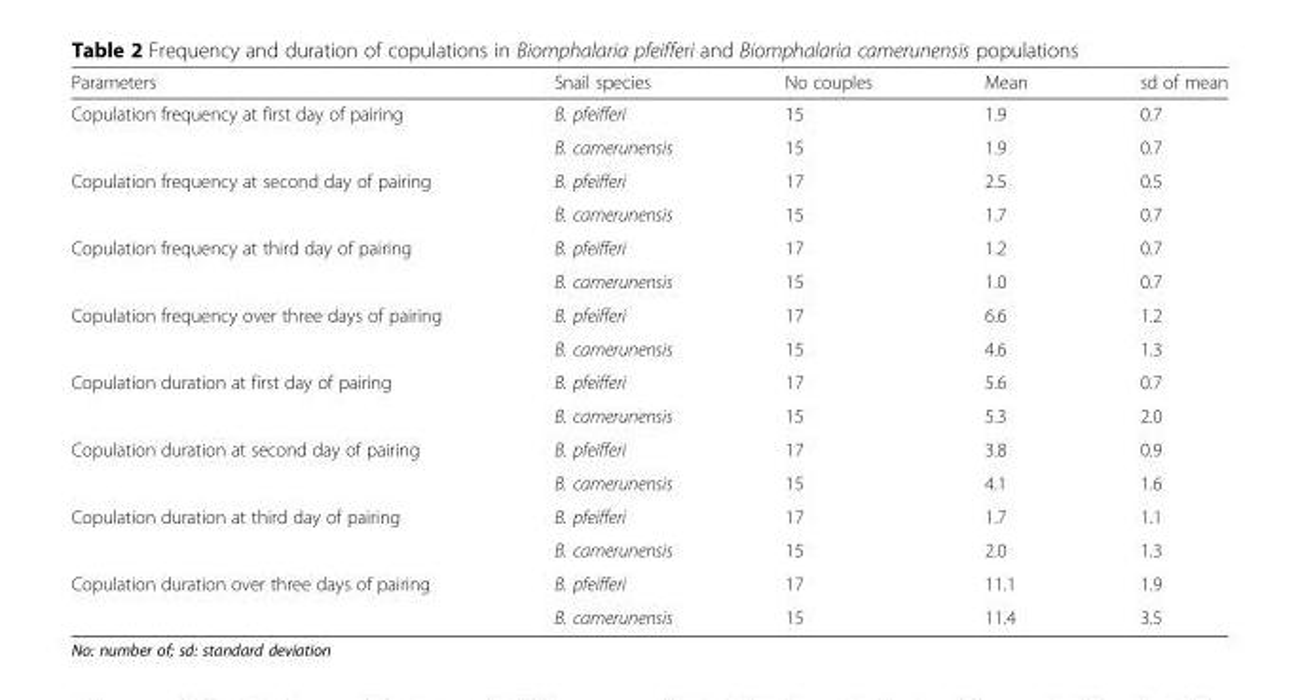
<table><thead><tr><td>Parameters</td><td>Snail species</td><td>No couples</td><td>Mean</td><td>sd of mean</td></tr></thead><tbody><tr><td rowspan="2">Copulation frequency at first day of pairing</td><td>B. pfeifferi</td><td>15</td><td>1.9</td><td>0.7</td></tr><tr><td>B. camerunensis</td><td>15</td><td>1.9</td><td>0.7</td></tr><tr><td rowspan="2">Copulation frequency at second day of pairing</td><td>B. pfeifferi</td><td>17</td><td>2.5</td><td>0.5</td></tr><tr><td>B. camerunensis</td><td>15</td><td>1.7</td><td>0.7</td></tr><tr><td rowspan="2">Copulation frequency at third day of pairing</td><td>B. pfeifferi</td><td>17</td><td>1.2</td><td>0.7</td></tr><tr><td>B. camerunensis</td><td>15</td><td>1.0</td><td>0.7</td></tr><tr><td rowspan="2">Copulation frequency over three days of pairing</td><td>B. pfeifferi</td><td>17</td><td>6.6</td><td>1.2</td></tr><tr><td>B. camerunensis</td><td>15</td><td>4.6</td><td>1.3</td></tr><tr><td rowspan="2">Copulation duration at first day of pairing</td><td>B. pfeifferi</td><td>17</td><td>5.6</td><td>0.7</td></tr><tr><td>B. camerunensis</td><td>15</td><td>5.3</td><td>2.0</td></tr><tr><td rowspan="2">Copulation duration at second day of pairing</td><td>B. pfeifferi</td><td>17</td><td>3.8</td><td>0.9</td></tr><tr><td>B. camerunensis</td><td>15</td><td>4.1</td><td>1.6</td></tr><tr><td rowspan="2">Copulation duration at third day of pairing</td><td>B. pfeifferi</td><td>17</td><td>1.7</td><td>1.1</td></tr><tr><td>B. camerunensis</td><td>15</td><td>2.0</td><td>1.3</td></tr><tr><td rowspan="2">Copulation duration over three days of pairing</td><td>B. pfeifferi</td><td>17</td><td>11.1</td><td>1.9</td></tr><tr><td>B. camerunensis</td><td>15</td><td>11.4</td><td>3.5</td></tr></tbody></table>